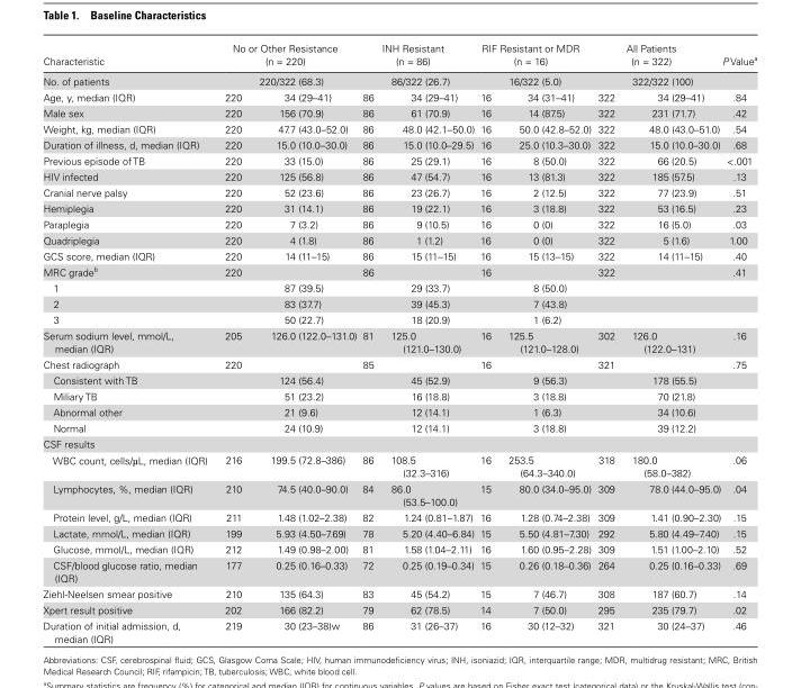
<table><thead><tr><td rowspan="2">Characteristic No. of patients</td><td colspan="2">No or Other Resistance (n = 220)</td><td colspan="2">INH Resistant (n = 86)</td><td colspan="2">RIF Resistant or MDR (n = 16)</td><td colspan="2">All Patients (n = 322)</td><td rowspan="2">P Value<sup>a</sup></td></tr><tr><td></td><td>220/322 (68.3)</td><td></td><td>86/322 (26.7)</td><td></td><td>16/322 (5.0)</td><td></td><td>322/322 (100)</td></tr></thead><tbody><tr><td>Age, y, median (IQR)</td><td>220</td><td>34 (29–41)</td><td>86</td><td>34 (29–41)</td><td>16</td><td>34 (31–41)</td><td>322</td><td>34 (29–41)</td><td>.84</td></tr><tr><td>Male sex</td><td>220</td><td>156 (70.9)</td><td>86</td><td>61 (70.9)</td><td>16</td><td>14 (87.5)</td><td>322</td><td>231 (71.7)</td><td>.42</td></tr><tr><td>Weight, kg, median (IQR)</td><td>220</td><td>47.7 (43.0–52.0)</td><td>86</td><td>48.0 (42.1–50.0)</td><td>16</td><td>50.0 (42.8–52.0)</td><td>322</td><td>48.0 (43.0–51.0)</td><td>.54</td></tr><tr><td>Duration of illness, d, median (IQR)</td><td>220</td><td>15.0 (10.0–30.0)</td><td>86</td><td>15.0 (10.0–29.5)</td><td>16</td><td>25.0 (10.3–30.0)</td><td>322</td><td>15.0 (10.0–30.0)</td><td>.68</td></tr><tr><td>Previous episode of TB</td><td>220</td><td>33 (15.0)</td><td>86</td><td>25 (29.1)</td><td>16</td><td>8 (50.0)</td><td>322</td><td>66 (20.5)</td><td>&lt;.001</td></tr><tr><td>HIV infected</td><td>220</td><td>125 (56.8)</td><td>86</td><td>47 (54.7)</td><td>16</td><td>13 (81.3)</td><td>322</td><td>185 (57.5)</td><td>.13</td></tr><tr><td>Cranial nerve palsy</td><td>220</td><td>52 (23.6)</td><td>86</td><td>23 (26.7)</td><td>16</td><td>2 (12.5)</td><td>322</td><td>77 (23.9)</td><td>.51</td></tr><tr><td>Hemiplegia</td><td>220</td><td>31 (14.1)</td><td>86</td><td>19 (22.1)</td><td>16</td><td>3 (18.8)</td><td>322</td><td>53 (16.5)</td><td>.23</td></tr><tr><td>Paraplegia</td><td>220</td><td>7 (3.2)</td><td>86</td><td>9 (10.5)</td><td>16</td><td>0 (0)</td><td>322</td><td>16 (5.0)</td><td>.03</td></tr><tr><td>Quadriplegia</td><td>220</td><td>4 (1.8)</td><td>86</td><td>1 (1.2)</td><td>16</td><td>0 (0)</td><td>322</td><td>5 (1.6)</td><td>1.00</td></tr><tr><td>GCS score, median (IQR)</td><td>220</td><td>14 (11–15)</td><td>86</td><td>15 (11–15)</td><td>16</td><td>15 (13–15)</td><td>322</td><td>14 (11–15)</td><td>.40</td></tr><tr><td>MRC grade<sup>b</sup></td><td>220</td><td></td><td>86</td><td></td><td>16</td><td></td><td>322</td><td></td><td>.41</td></tr><tr><td>1</td><td></td><td>87 (39.5)</td><td></td><td>29 (33.7)</td><td></td><td>8 (50.0)</td><td></td><td></td><td></td></tr><tr><td>2</td><td></td><td>83 (37.7)</td><td></td><td>39 (45.3)</td><td></td><td>7 (43.8)</td><td></td><td></td><td></td></tr><tr><td>3</td><td></td><td>50 (22.7)</td><td></td><td>18 (20.9)</td><td></td><td>1 (6.2)</td><td></td><td></td><td></td></tr><tr><td>Serum sodium level, mmol/L, median (IQR)</td><td>205</td><td>126.0 (122.0–131.0)</td><td>81</td><td>125.0 (121.0–130.0)</td><td>16</td><td>125.5 (121.0–128.0)</td><td>302</td><td>126.0 (122.0–131)</td><td>.16</td></tr><tr><td>Chest radiograph</td><td>220</td><td></td><td>85</td><td></td><td>16</td><td></td><td>321</td><td></td><td>.75</td></tr><tr><td>Consistent with TB</td><td></td><td>124 (56.4)</td><td></td><td>45 (52.9)</td><td></td><td>9 (56.3)</td><td></td><td>178 (55.5)</td><td></td></tr><tr><td>Miliary TB</td><td></td><td>51 (23.2)</td><td></td><td>16 (18.8)</td><td></td><td>3 (18.8)</td><td></td><td>70 (21.8)</td><td></td></tr><tr><td>Abnormal other</td><td></td><td>21 (9.6)</td><td></td><td>12 (14.1)</td><td></td><td>1 (6.3)</td><td></td><td>34 (10.6)</td><td></td></tr><tr><td>Normal</td><td></td><td>24 (10.9)</td><td></td><td>12 (14.1)</td><td></td><td>3 (18.8)</td><td></td><td>39 (12.2)</td><td></td></tr><tr><td colspan="10">CSF results</td></tr><tr><td>WBC count, cells/µL, median (IQR)</td><td>216</td><td>199.5 (72.8–386)</td><td>86</td><td>108.5 (32.3–316)</td><td>16</td><td>253.5 (64.3–340.0)</td><td>318</td><td>180.0 (58.0–382)</td><td>.06</td></tr><tr><td>Lymphocytes, %, median (IQR)</td><td>210</td><td>74.5 (40.0–90.0)</td><td>84</td><td>86.0 (53.5–100.0)</td><td>15</td><td>80.0 (34.0–95.0)</td><td>309</td><td>78.0 (44.0–95.0)</td><td>.04</td></tr><tr><td>Protein level, g/L, median (IQR)</td><td>211</td><td>1.48 (1.02–2.38)</td><td>82</td><td>1.24 (0.81–1.87)</td><td>16</td><td>1.28 (0.74–2.38)</td><td>309</td><td>1.41 (0.90–2.30)</td><td>.15</td></tr><tr><td>Lactate, mmol/L, median (IQR)</td><td>199</td><td>5.93 (4.50–7.69)</td><td>78</td><td>5.20 (4.40–6.84)</td><td>15</td><td>5.50 (4.81–7.30)</td><td>292</td><td>5.80 (4.49–7.40)</td><td>.15</td></tr><tr><td>Glucose, mmol/L, median (IQR)</td><td>212</td><td>1.49 (0.98–2.00)</td><td>81</td><td>1.58 (1.04–2.11)</td><td>16</td><td>1.60 (0.95–2.28)</td><td>309</td><td>1.51 (1.00–2.10)</td><td>.52</td></tr><tr><td>CSF/blood glucose ratio, median (IQR)</td><td>177</td><td>0.25 (0.16–0.33)</td><td>72</td><td>0.25 (0.19–0.34)</td><td>15</td><td>0.26 (0.18–0.36)</td><td>264</td><td>0.25 (0.16–0.33)</td><td>.69</td></tr><tr><td>Ziehl-Neelsen smear positive</td><td>210</td><td>135 (64.3)</td><td>83</td><td>45 (54.2)</td><td>15</td><td>7 (46.7)</td><td>308</td><td>187 (60.7)</td><td>.14</td></tr><tr><td>Xpert result positive</td><td>202</td><td>166 (82.2)</td><td>79</td><td>62 (78.5)</td><td>14</td><td>7 (50.0)</td><td>295</td><td>235 (79.7)</td><td>.02</td></tr><tr><td>Duration of initial admission, d, median (IQR)</td><td>219</td><td>30 (23–38)w</td><td>86</td><td>31 (26–37)</td><td>16</td><td>30 (12–32)</td><td>321</td><td>30 (24–37)</td><td>.46</td></tr></tbody></table>